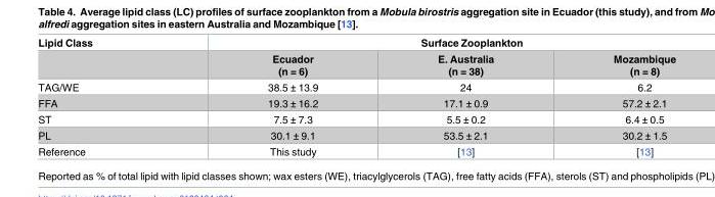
<table><thead><tr><td rowspan="2">Lipid Class</td><td colspan="3">Surface Zooplankton</td></tr><tr><td>Ecuador (n = 6)</td><td>E. Australia (n = 38)</td><td>Mozambique (n = 8)</td></tr></thead><tbody><tr><td>TAG/WE</td><td>38.5 ± 13.9</td><td>24</td><td>6.2</td></tr><tr><td>FFA</td><td>19.3 ± 16.2</td><td>17.1 ± 0.9</td><td>57.2 ± 2.1</td></tr><tr><td>ST</td><td>7.5 ± 7.3</td><td>5.5 ± 0.2</td><td>6.4 ± 0.5</td></tr><tr><td>PL</td><td>30.1 ± 9.1</td><td>53.5 ± 2.1</td><td>30.2 ± 1.5</td></tr><tr><td>Reference</td><td>This study</td><td>[13]</td><td>[13]</td></tr></tbody></table>